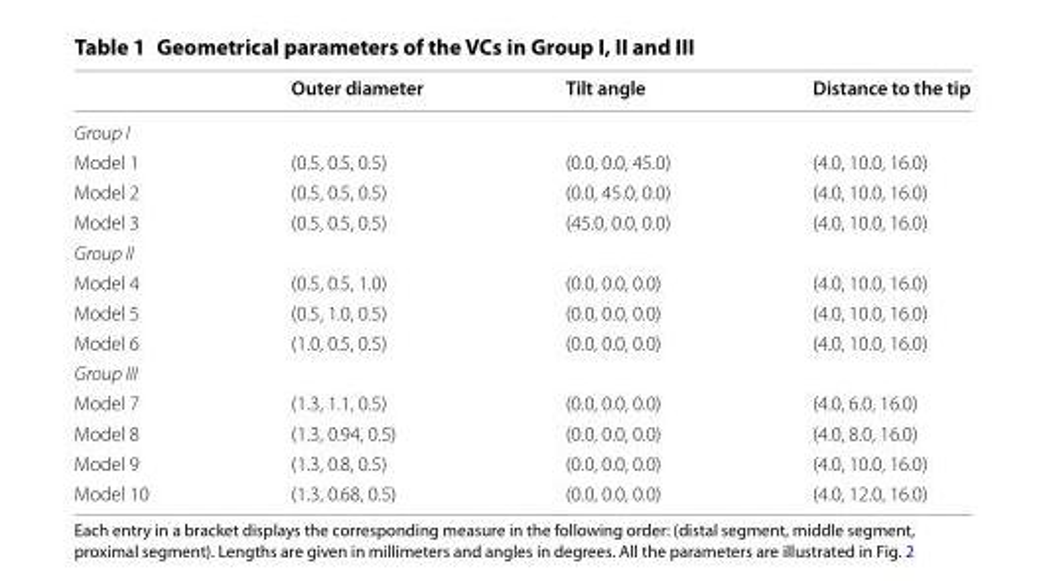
<table><thead><tr><td></td><td>Outer diameter</td><td>Tilt angle</td><td>Distance to the tip</td></tr></thead><tbody><tr><td colspan="4">Group I</td></tr><tr><td>Model 1</td><td>(0.5, 0.5, 0.5)</td><td>(0.0, 0.0, 45.0)</td><td>(4.0, 10.0, 16.0)</td></tr><tr><td>Model 2</td><td>(0.5, 0.5, 0.5)</td><td>(0.0, 45.0, 0.0)</td><td>(4.0, 10.0, 16.0)</td></tr><tr><td>Model 3</td><td>(0.5, 0.5, 0.5)</td><td>(45.0, 0.0, 0.0)</td><td>(4.0, 10.0, 16.0)</td></tr><tr><td colspan="4">Group II</td></tr><tr><td>Model 4</td><td>(0.5, 0.5, 1.0)</td><td>(0.0, 0.0, 0.0)</td><td>(4.0, 10.0, 16.0)</td></tr><tr><td>Model 5</td><td>(0.5, 1.0, 0.5)</td><td>(0.0, 0.0, 0.0)</td><td>(4.0, 10.0, 16.0)</td></tr><tr><td>Model 6</td><td>(1.0, 0.5, 0.5)</td><td>(0.0, 0.0, 0.0)</td><td>(4.0, 10.0, 16.0)</td></tr><tr><td colspan="4">Group III</td></tr><tr><td>Model 7</td><td>(1.3, 1.1, 0.5)</td><td>(0.0, 0.0, 0.0)</td><td>(4.0, 6.0, 16.0)</td></tr><tr><td>Model 8</td><td>(1.3, 0.94, 0.5)</td><td>(0.0, 0.0, 0.0)</td><td>(4.0, 8.0, 16.0)</td></tr><tr><td>Model 9</td><td>(1.3, 0.8, 0.5)</td><td>(0.0, 0.0, 0.0)</td><td>(4.0, 10.0, 16.0)</td></tr><tr><td>Model 10</td><td>(1.3, 0.68, 0.5)</td><td>(0.0, 0.0, 0.0)</td><td>(4.0, 12.0, 16.0)</td></tr></tbody></table>